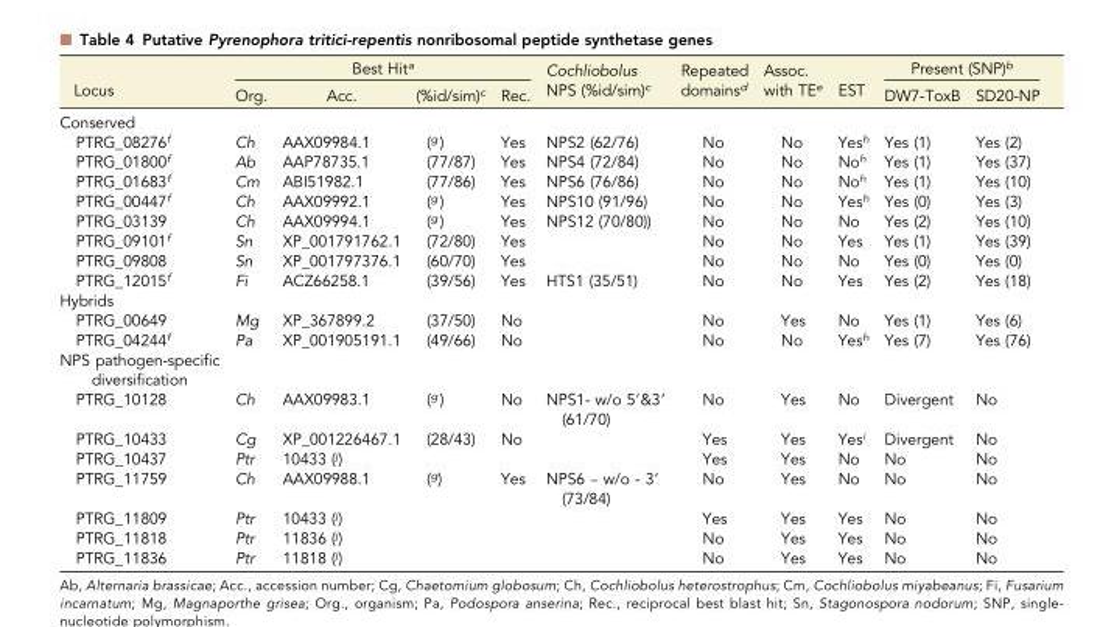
<table><thead><tr><td rowspan="2">Locus</td><td colspan="4">Best Hit<sup>a</sup></td><td rowspan="2">Cochliobolus NPS (%id/sim)<sup>c</sup></td><td rowspan="2">Repeated domains<sup>d</sup></td><td rowspan="2">Assoc. with TE<sup>e</sup></td><td rowspan="2">EST</td><td colspan="2">Present (SNP)<sup>b</sup></td></tr><tr><td>Org.</td><td>Acc.</td><td>(%id/sim)<sup>c</sup></td><td>Rec.</td><td>DW7-ToxB</td><td>SD20-NP</td></tr></thead><tbody><tr><td colspan="11">Conserved</td></tr><tr><td>PTRG_08276<sup>f</sup></td><td>Ch</td><td>AAX09984.1</td><td>(<sup>g</sup>)</td><td>Yes</td><td>NPS2 (62/76)</td><td>No</td><td>No</td><td>Yes<sup>h</sup></td><td>Yes (1)</td><td>Yes (2)</td></tr><tr><td>PTRG_01800<sup>f</sup></td><td>Ab</td><td>AAP78735.1</td><td>(77/87)</td><td>Yes</td><td>NPS4 (72/84)</td><td>No</td><td>No</td><td>No<sup>h</sup></td><td>Yes (1)</td><td>Yes (37)</td></tr><tr><td>PTRG_01683<sup>f</sup></td><td>Cm</td><td>ABI51982.1</td><td>(77/86)</td><td>Yes</td><td>NPS6 (76/86)</td><td>No</td><td>No</td><td>No<sup>h</sup></td><td>Yes (1)</td><td>Yes (10)</td></tr><tr><td>PTRG_00447<sup>f</sup></td><td>Ch</td><td>AAX09992.1</td><td>(<sup>g</sup>)</td><td>Yes</td><td>NPS10 (91/96)</td><td>No</td><td>No</td><td>Yes<sup>h</sup></td><td>Yes (0)</td><td>Yes (3)</td></tr><tr><td>PTRG_03139</td><td>Ch</td><td>AAX09994.1</td><td>(<sup>g</sup>)</td><td>Yes</td><td>NPS12 (70/80))</td><td>No</td><td>No</td><td>No</td><td>Yes (2)</td><td>Yes (10)</td></tr><tr><td>PTRG_09101<sup>f</sup></td><td>Sn</td><td>XP_001791762.1</td><td>(72/80)</td><td>Yes</td><td></td><td>No</td><td>No</td><td>Yes</td><td>Yes (1)</td><td>Yes (39)</td></tr><tr><td>PTRG_09808</td><td>Sn</td><td>XP_001797376.1</td><td>(60/70)</td><td>Yes</td><td></td><td>No</td><td>No</td><td>No</td><td>Yes (0)</td><td>Yes (0)</td></tr><tr><td>PTRG_12015<sup>f</sup></td><td>Fi</td><td>ACZ66258.1</td><td>(39/56)</td><td>Yes</td><td>HTS1 (35/51)</td><td>No</td><td>No</td><td>Yes</td><td>Yes (2)</td><td>Yes (18)</td></tr><tr><td colspan="11">Hybrids</td></tr><tr><td>PTRG_00649</td><td>Mg</td><td>XP_367899.2</td><td>(37/50)</td><td>No</td><td></td><td>No</td><td>Yes</td><td>No</td><td>Yes (1)</td><td>Yes (6)</td></tr><tr><td>PTRG_04244<sup>f</sup></td><td>Pa</td><td>XP_001905191.1</td><td>(49/66)</td><td>No</td><td></td><td>No</td><td>No</td><td>Yes<sup>h</sup></td><td>Yes (7)</td><td>Yes (76)</td></tr><tr><td colspan="11">NPS pathogen-specific diversification</td></tr><tr><td>PTRG_10128</td><td>Ch</td><td>AAX09983.1</td><td>(<sup>g</sup>)</td><td>No</td><td>NPS1- w/o 5′&amp;3′ (61/70)</td><td>No</td><td>Yes</td><td>No</td><td>Divergent</td><td>No</td></tr><tr><td>PTRG_10433</td><td>Cg</td><td>XP_001226467.1</td><td>(28/43)</td><td>No</td><td></td><td>Yes</td><td>Yes</td><td>Yes<sup>i</sup></td><td>Divergent</td><td>No</td></tr><tr><td>PTRG_10437</td><td>Ptr</td><td>10433 (<sup>j</sup>)</td><td></td><td></td><td></td><td>Yes</td><td>Yes</td><td>No</td><td>No</td><td>No</td></tr><tr><td>PTRG_11759</td><td>Ch</td><td>AAX09988.1</td><td>(<sup>g</sup>)</td><td>Yes</td><td>NPS6 – w/o - 3′ (73/84)</td><td>No</td><td>Yes</td><td>No</td><td>No</td><td>No</td></tr><tr><td>PTRG_11809</td><td>Ptr</td><td>10433 (<sup>j</sup>)</td><td></td><td></td><td></td><td>Yes</td><td>Yes</td><td>Yes</td><td>No</td><td>No</td></tr><tr><td>PTRG_11818</td><td>Ptr</td><td>11836 (<sup>j</sup>)</td><td></td><td></td><td></td><td>No</td><td>Yes</td><td>Yes</td><td>No</td><td>No</td></tr><tr><td>PTRG_11836</td><td>Ptr</td><td>11818 (<sup>j</sup>)</td><td></td><td></td><td></td><td>No</td><td>Yes</td><td>Yes</td><td>No</td><td>No</td></tr></tbody></table>